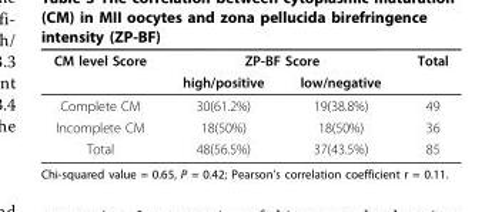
<table><thead><tr><td rowspan="2">CM level Score</td><td colspan="2">ZP-BF Score</td><td rowspan="2">Total</td></tr><tr><td>high/positive</td><td>low/negative</td></tr></thead><tbody><tr><td>Complete CM</td><td>30(61.2%)</td><td>19(38.8%)</td><td>49</td></tr><tr><td>Incomplete CM</td><td>18(50%)</td><td>18(50%)</td><td>36</td></tr><tr><td>Total</td><td>48(56.5%)</td><td>37(43.5%)</td><td>85</td></tr></tbody></table>